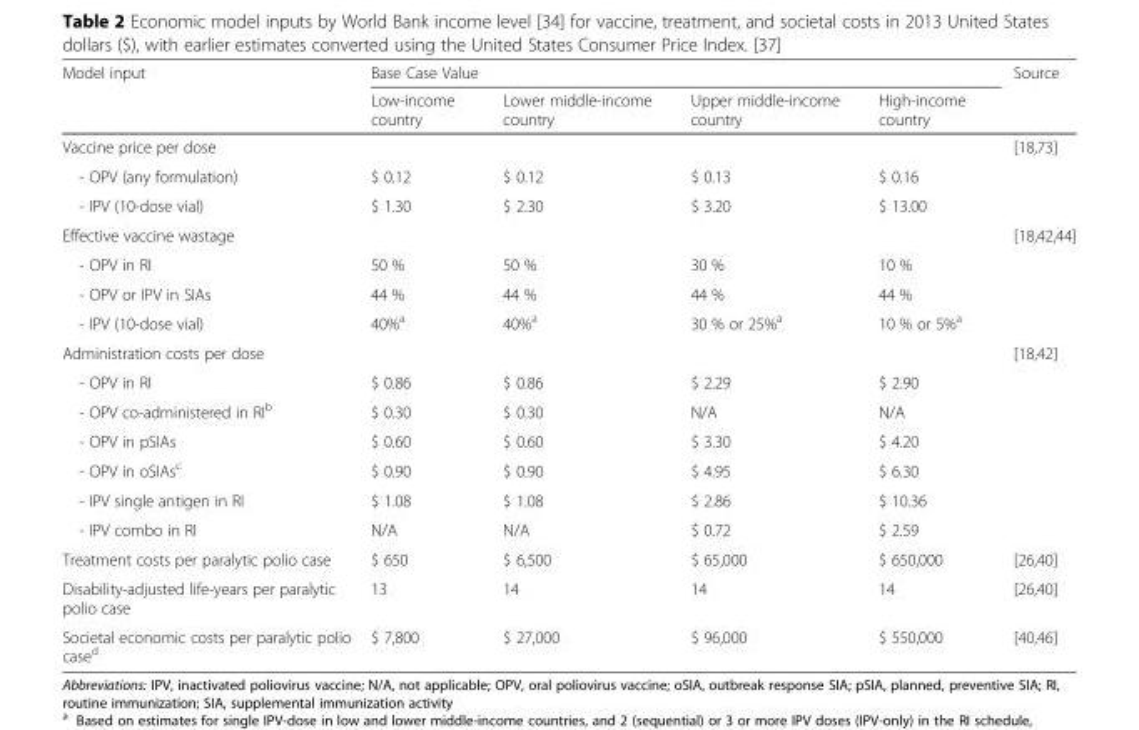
<table><thead><tr><td rowspan="2">Model input</td><td colspan="4">Base Case Value</td><td rowspan="2">Source</td></tr><tr><td>Low-income country</td><td>Lower middle-income country</td><td>Upper middle-income country</td><td>High-income country</td></tr></thead><tbody><tr><td colspan="5">Vaccine price per dose</td><td rowspan="3">[18,73]</td></tr><tr><td>- OPV (any formulation)</td><td>$ 0.12</td><td>$ 0.12</td><td>$ 0.13</td><td>$ 0.16</td></tr><tr><td>- IPV (10-dose vial)</td><td>$ 1.30</td><td>$ 2.30</td><td>$ 3.20</td><td>$ 13.00</td></tr><tr><td colspan="5">Effective vaccine wastage</td><td rowspan="4">[18,42,44]</td></tr><tr><td>- OPV in RI</td><td>50 %</td><td>50 %</td><td>30 %</td><td>10 %</td></tr><tr><td>- OPV or IPV in SIAs</td><td>44 %</td><td>44 %</td><td>44 %</td><td>44 %</td></tr><tr><td>- IPV (10-dose vial)</td><td>40%<sup>a</sup></td><td>40%<sup>a</sup></td><td>30 % or 25%<sup>a</sup></td><td>10 % or 5%<sup>a</sup></td></tr><tr><td colspan="5">Administration costs per dose</td><td rowspan="7">[18,42]</td></tr><tr><td>- OPV in RI</td><td>$ 0.86</td><td>$ 0.86</td><td>$ 2.29</td><td>$ 2.90</td></tr><tr><td>- OPV co-administered in RI<sup>b</sup></td><td>$ 0.30</td><td>$ 0.30</td><td>N/A</td><td>N/A</td></tr><tr><td>- OPV in pSIAs</td><td>$ 0.60</td><td>$ 0.60</td><td>$ 3.30</td><td>$ 4.20</td></tr><tr><td>- OPV in oSIAs<sup>c</sup></td><td>$ 0.90</td><td>$ 0.90</td><td>$ 4.95</td><td>$ 6.30</td></tr><tr><td>- IPV single antigen in RI</td><td>$ 1.08</td><td>$ 1.08</td><td>$ 2.86</td><td>$ 10.36</td></tr><tr><td>- IPV combo in RI</td><td>N/A</td><td>N/A</td><td>$ 0.72</td><td>$ 2.59</td></tr><tr><td>Treatment costs per paralytic polio case</td><td>$ 650</td><td>$ 6,500</td><td>$ 65,000</td><td>$ 650,000</td><td>[26,40]</td></tr><tr><td>Disability-adjusted life-years per paralytic polio case</td><td>13</td><td>14</td><td>14</td><td>14</td><td>[26,40]</td></tr><tr><td>Societal economic costs per paralytic polio case<sup>d</sup></td><td>$ 7,800</td><td>$ 27,000</td><td>$ 96,000</td><td>$ 550,000</td><td>[40,46]</td></tr></tbody></table>